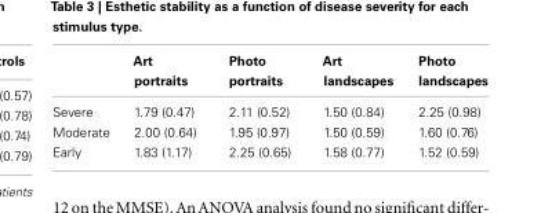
<table><thead><tr><td></td><td>Art portraits</td><td>Photo portraits</td><td>Art landscapes</td><td>Photo landscapes</td></tr></thead><tbody><tr><td>Severe</td><td>1.79 (0.47)</td><td>2.11 (0.52)</td><td>1.50 (0.84)</td><td>2.25 (0.98)</td></tr><tr><td>Moderate</td><td>2.00 (0.64)</td><td>1.95 (0.97)</td><td>1.50 (0.59)</td><td>1.60 (0.76)</td></tr><tr><td>Early</td><td>1.83 (1.17)</td><td>2.25 (0.65)</td><td>1.58 (0.77)</td><td>1.52 (0.59)</td></tr></tbody></table>